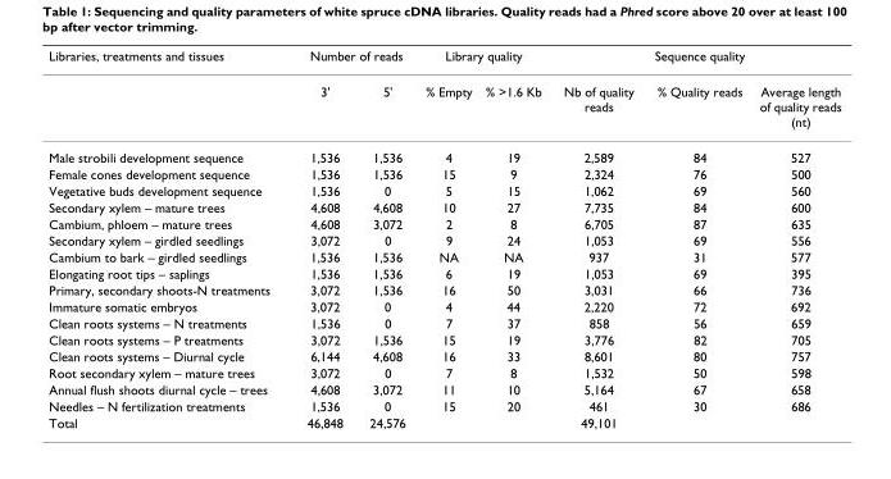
<table><thead><tr><td rowspan="2">Libraries, treatments and tissues</td><td colspan="2">Number of reads</td><td colspan="2">Library quality</td><td colspan="3">Sequence quality</td></tr><tr><td>3&#x27;</td><td>5&#x27;</td><td>% Empty</td><td>% &gt;1.6 Kb</td><td>Nb of quality reads</td><td>% Quality reads</td><td>Average length of quality reads (nt)</td></tr></thead><tbody><tr><td>Male strobili development sequence</td><td>1,536</td><td>1,536</td><td>4</td><td>19</td><td>2,589</td><td>84</td><td>527</td></tr><tr><td>Female cones development sequence</td><td>1,536</td><td>1,536</td><td>15</td><td>9</td><td>2,324</td><td>76</td><td>500</td></tr><tr><td>Vegetative buds development sequence</td><td>1,536</td><td>0</td><td>5</td><td>15</td><td>1,062</td><td>69</td><td>560</td></tr><tr><td>Secondary xylem – mature trees</td><td>4,608</td><td>4,608</td><td>10</td><td>27</td><td>7,735</td><td>84</td><td>600</td></tr><tr><td>Cambium, phloem – mature trees</td><td>4,608</td><td>3,072</td><td>2</td><td>8</td><td>6,705</td><td>87</td><td>635</td></tr><tr><td>Secondary xylem – girdled seedlings</td><td>3,072</td><td>0</td><td>9</td><td>24</td><td>1,053</td><td>69</td><td>556</td></tr><tr><td>Cambium to bark – girdled seedlings</td><td>1,536</td><td>1,536</td><td>NA</td><td>NA</td><td>937</td><td>31</td><td>577</td></tr><tr><td>Elongating root tips – saplings</td><td>1,536</td><td>1,536</td><td>6</td><td>19</td><td>1,053</td><td>69</td><td>395</td></tr><tr><td>Primary, secondary shoots-N treatments</td><td>3,072</td><td>1,536</td><td>16</td><td>50</td><td>3,031</td><td>66</td><td>736</td></tr><tr><td>Immature somatic embryos</td><td>3,072</td><td>0</td><td>4</td><td>44</td><td>2,220</td><td>72</td><td>692</td></tr><tr><td>Clean roots systems – N treatments</td><td>1,536</td><td>0</td><td>7</td><td>37</td><td>858</td><td>56</td><td>659</td></tr><tr><td>Clean roots systems – P treatments</td><td>3,072</td><td>1,536</td><td>15</td><td>19</td><td>3,776</td><td>82</td><td>705</td></tr><tr><td>Clean roots systems – Diurnal cycle</td><td>6,144</td><td>4,608</td><td>16</td><td>33</td><td>8,601</td><td>80</td><td>757</td></tr><tr><td>Root secondary xylem – mature trees</td><td>3,072</td><td>0</td><td>7</td><td>8</td><td>1,532</td><td>50</td><td>598</td></tr><tr><td>Annual flush shoots diurnal cycle – trees</td><td>4,608</td><td>3,072</td><td>11</td><td>10</td><td>5,164</td><td>67</td><td>658</td></tr><tr><td>Needles – N fertilization treatments</td><td>1,536</td><td>0</td><td>15</td><td>20</td><td>461</td><td>30</td><td>686</td></tr><tr><td>Total</td><td>46,848</td><td>24,576</td><td></td><td></td><td>49,101</td><td></td><td></td></tr></tbody></table>